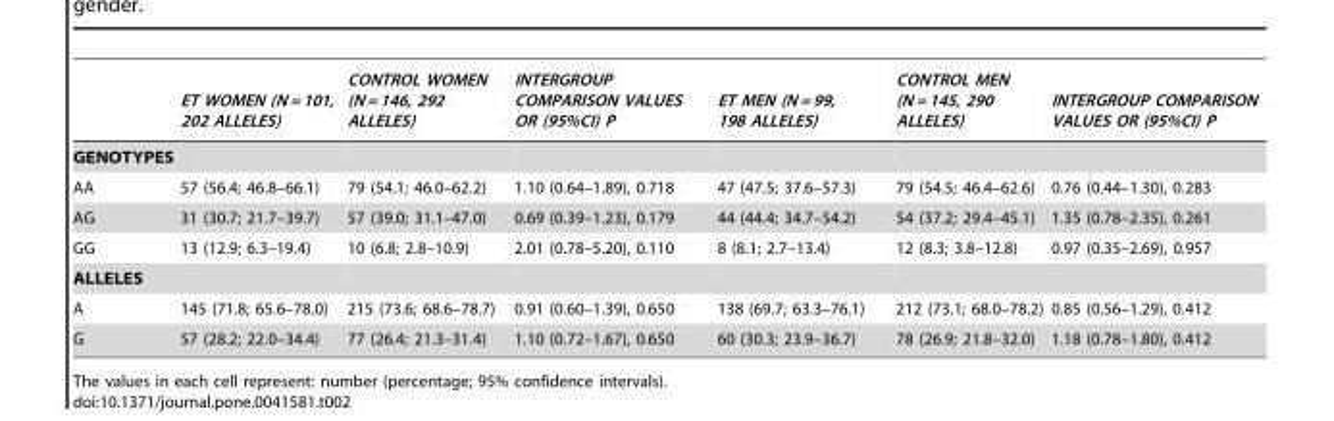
<table><thead><tr><td></td><td>ET WOMEN (N = 101, 202 ALLELES)</td><td>CONTROL WOMEN (N = 146, 292 ALLELES)</td><td>INTERGROUP COMPARISON VALUES OR (95%CI) P</td><td>ET MEN (N = 99, 198 ALLELES)</td><td>CONTROL MEN (N = 145, 290 ALLELES)</td><td>INTERGROUP COMPARISON VALUES OR (95%CI) P</td></tr></thead><tbody><tr><td colspan="7">GENOTYPES</td></tr><tr><td>AA</td><td>57 (56.4; 46.8–66.1)</td><td>79 (54.1; 46.0–62.2)</td><td>1.10 (0.64–1.89), 0.718</td><td>47 (47.5; 37.6–57.3)</td><td>79 (54.5; 46.4–62.6)</td><td>0.76 (0.44–1.30), 0.283</td></tr><tr><td>AG</td><td>31 (30.7; 21.7–39.7)</td><td>57 (39.0; 31.1–47.0)</td><td>0.69 (0.39–1.23), 0.179</td><td>44 (44.4; 34.7–54.2)</td><td>54 (37.2; 29.4–45.1)</td><td>1.35 (0.78–2.35), 0.261</td></tr><tr><td>GG</td><td>13 (12.9; 6.3–19.4)</td><td>10 (6.8; 2.8–10.9)</td><td>2.01 (0.78–5.20), 0.110</td><td>8 (8.1; 2.7–13.4)</td><td>12 (8.3; 3.8–12.8)</td><td>0.97 (0.35–2.69), 0.957</td></tr><tr><td colspan="7">ALLELES</td></tr><tr><td>A</td><td>145 (71.8; 65.6–78.0)</td><td>215 (73.6; 68.6–78.7)</td><td>0.91 (0.60–1.39), 0.650</td><td>138 (69.7; 63.3–76.1)</td><td>212 (73.1; 68.0–78.2)</td><td>0.85 (0.56–1.29), 0.412</td></tr><tr><td>G</td><td>57 (28.2; 22.0–34.4)</td><td>77 (26.4; 21.3–31.4)</td><td>1.10 (0.72–1.67), 0.650</td><td>60 (30.3; 23.9–36.7)</td><td>78 (26.9; 21.8–32.0)</td><td>1.18 (0.78–1.80), 0.412</td></tr></tbody></table>